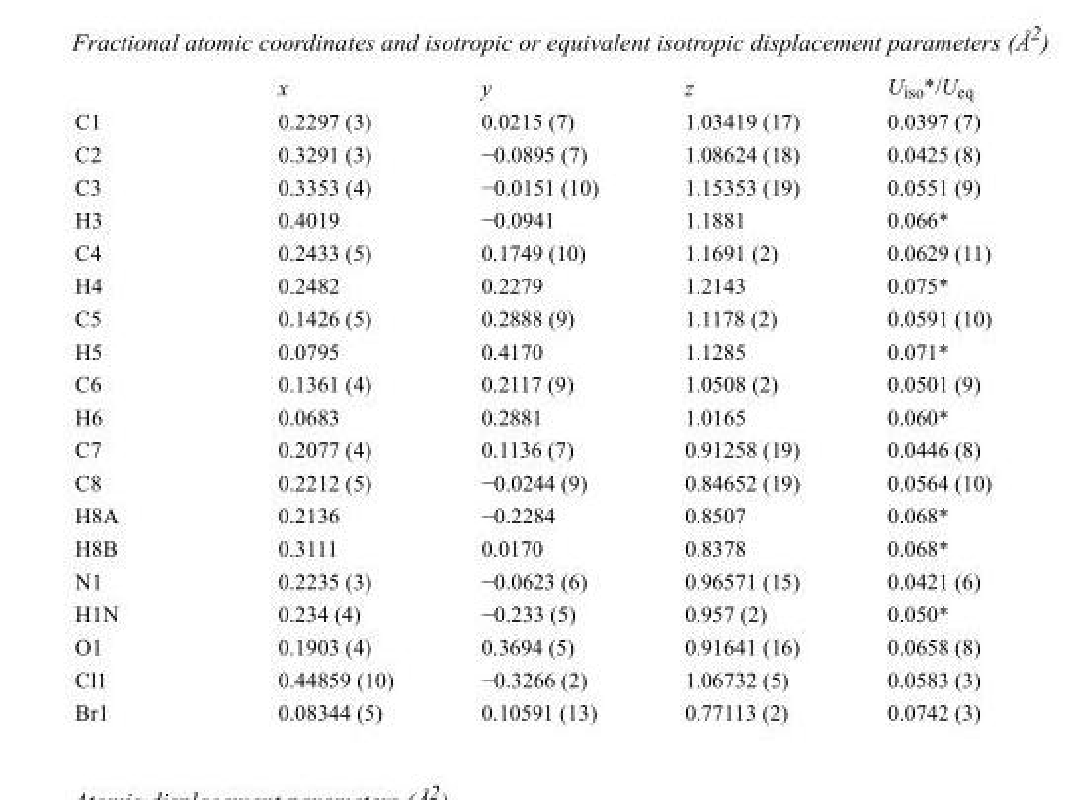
<table><thead><tr><td></td><td>x</td><td>y</td><td>z</td><td>U<sub>iso</sub>*/U<sub>eq</sub></td></tr></thead><tbody><tr><td>C1</td><td>0.2297 (3)</td><td>0.0215 (7)</td><td>1.03419 (17)</td><td>0.0397 (7)</td></tr><tr><td>C2</td><td>0.3291 (3)</td><td>−0.0895 (7)</td><td>1.08624 (18)</td><td>0.0425 (8)</td></tr><tr><td>C3</td><td>0.3353 (4)</td><td>−0.0151 (10)</td><td>1.15353 (19)</td><td>0.0551 (9)</td></tr><tr><td>H3</td><td>0.4019</td><td>−0.0941</td><td>1.1881</td><td>0.066*</td></tr><tr><td>C4</td><td>0.2433 (5)</td><td>0.1749 (10)</td><td>1.1691 (2)</td><td>0.0629 (11)</td></tr><tr><td>H4</td><td>0.2482</td><td>0.2279</td><td>1.2143</td><td>0.075*</td></tr><tr><td>C5</td><td>0.1426 (5)</td><td>0.2888 (9)</td><td>1.1178 (2)</td><td>0.0591 (10)</td></tr><tr><td>H5</td><td>0.0795</td><td>0.4170</td><td>1.1285</td><td>0.071*</td></tr><tr><td>C6</td><td>0.1361 (4)</td><td>0.2117 (9)</td><td>1.0508 (2)</td><td>0.0501 (9)</td></tr><tr><td>H6</td><td>0.0683</td><td>0.2881</td><td>1.0165</td><td>0.060*</td></tr><tr><td>C7</td><td>0.2077 (4)</td><td>0.1136 (7)</td><td>0.91258 (19)</td><td>0.0446 (8)</td></tr><tr><td>C8</td><td>0.2212 (5)</td><td>−0.0244 (9)</td><td>0.84652 (19)</td><td>0.0564 (10)</td></tr><tr><td>H8A</td><td>0.2136</td><td>−0.2284</td><td>0.8507</td><td>0.068*</td></tr><tr><td>H8B</td><td>0.3111</td><td>0.0170</td><td>0.8378</td><td>0.068*</td></tr><tr><td>N1</td><td>0.2235 (3)</td><td>−0.0623 (6)</td><td>0.96571 (15)</td><td>0.0421 (6)</td></tr><tr><td>H1N</td><td>0.234 (4)</td><td>−0.233 (5)</td><td>0.957 (2)</td><td>0.050*</td></tr><tr><td>O1</td><td>0.1903 (4)</td><td>0.3694 (5)</td><td>0.91641 (16)</td><td>0.0658 (8)</td></tr><tr><td>Cl1</td><td>0.44859 (10)</td><td>−0.3266 (2)</td><td>1.06732 (5)</td><td>0.0583 (3)</td></tr><tr><td>Br1</td><td>0.08344 (5)</td><td>0.10591 (13)</td><td>0.77113 (2)</td><td>0.0742 (3)</td></tr></tbody></table>